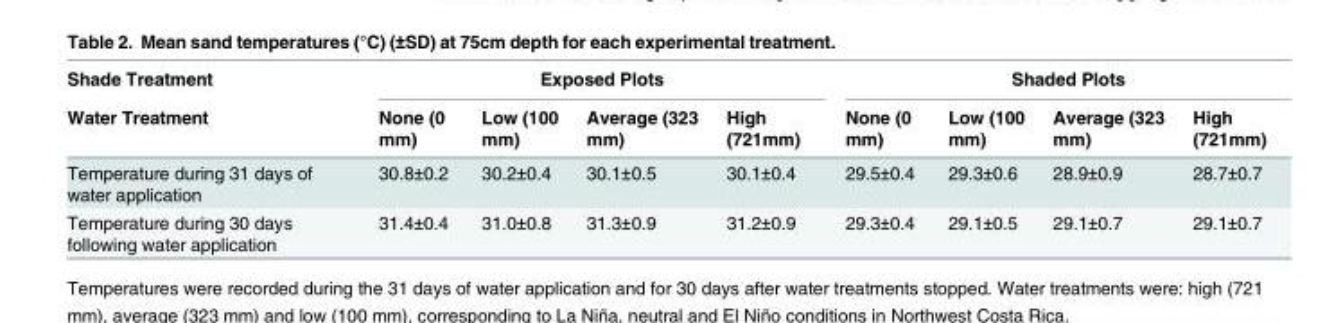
<table><thead><tr><td rowspan="2">Shade Treatment Water Treatment</td><td colspan="4">Exposed Plots</td><td colspan="4">Shaded Plots</td></tr><tr><td>None (0 mm)</td><td>Low (100 mm)</td><td>Average (323 mm)</td><td>High (721mm)</td><td>None (0 mm)</td><td>Low (100 mm)</td><td>Average (323 mm)</td><td>High (721mm)</td></tr></thead><tbody><tr><td>Temperature during 31 days of water application</td><td>30.8±0.2</td><td>30.2±0.4</td><td>30.1±0.5</td><td>30.1±0.4</td><td>29.5±0.4</td><td>29.3±0.6</td><td>28.9±0.9</td><td>28.7±0.7</td></tr><tr><td>Temperature during 30 days following water application</td><td>31.4±0.4</td><td>31.0±0.8</td><td>31.3±0.9</td><td>31.2±0.9</td><td>29.3±0.4</td><td>29.1±0.5</td><td>29.1±0.7</td><td>29.1±0.7</td></tr></tbody></table>